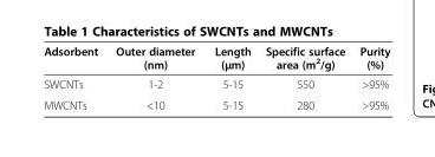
<table><thead><tr><td>Adsorbent</td><td>Outer diameter (nm)</td><td>Length (μm)</td><td>Specific surface area (m<sup>2</sup>/g)</td><td>Purity (%)</td></tr></thead><tbody><tr><td>SWCNTs</td><td>1-2</td><td>5-15</td><td>550</td><td>&gt;95%</td></tr><tr><td>MWCNTs</td><td>&lt;10</td><td>5-15</td><td>280</td><td>&gt;95%</td></tr></tbody></table>